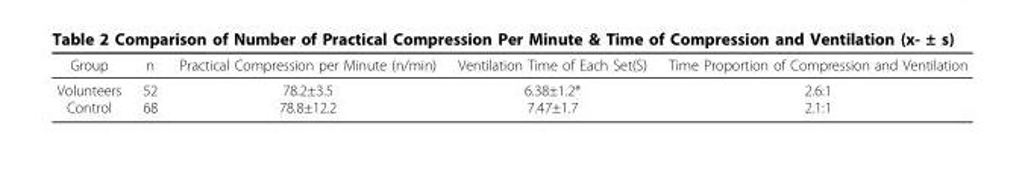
<table><thead><tr><td>Group</td><td>n</td><td>Practical Compression per Minute (n/min)</td><td>Ventilation Time of Each Set(S)</td><td>Time Proportion of Compression and Ventilation</td></tr></thead><tbody><tr><td>Volunteers Control</td><td>52 68</td><td>78.2±3.5 78.8±12.2</td><td>6.38±1.2* 7.47±1.7</td><td>2.6:1 2.1:1</td></tr></tbody></table>